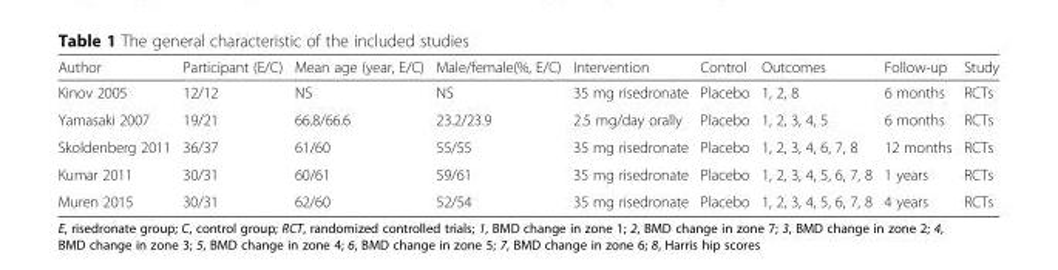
<table><thead><tr><td>Author</td><td>Participant (E/C)</td><td>Mean age (year, E/C)</td><td>Male/female(%, E/C)</td><td>Intervention</td><td>Control</td><td>Outcomes</td><td>Follow-up</td><td>Study</td></tr></thead><tbody><tr><td>Kinov 2005</td><td>12/12</td><td>NS</td><td>NS</td><td>35 mg risedronate</td><td>Placebo</td><td>1, 2, 8</td><td>6 months</td><td>RCTs</td></tr><tr><td>Yamasaki 2007</td><td>19/21</td><td>66.8/66.6</td><td>23.2/23.9</td><td>2.5 mg/day orally</td><td>Placebo</td><td>1, 2, 3, 4, 5</td><td>6 months</td><td>RCTs</td></tr><tr><td>Skoldenberg 2011</td><td>36/37</td><td>61/60</td><td>55/55</td><td>35 mg risedronate</td><td>Placebo</td><td>1, 2, 3, 4, 6, 7, 8</td><td>12 months</td><td>RCTs</td></tr><tr><td>Kumar 2011</td><td>30/31</td><td>60/61</td><td>59/61</td><td>35 mg risedronate</td><td>Placebo</td><td>1, 2, 3, 4, 5, 6, 7, 8</td><td>1 years</td><td>RCTs</td></tr><tr><td>Muren 2015</td><td>30/31</td><td>62/60</td><td>52/54</td><td>35 mg risedronate</td><td>Placebo</td><td>1, 2, 3, 4, 5, 6, 7, 8</td><td>4 years</td><td>RCTs</td></tr></tbody></table>